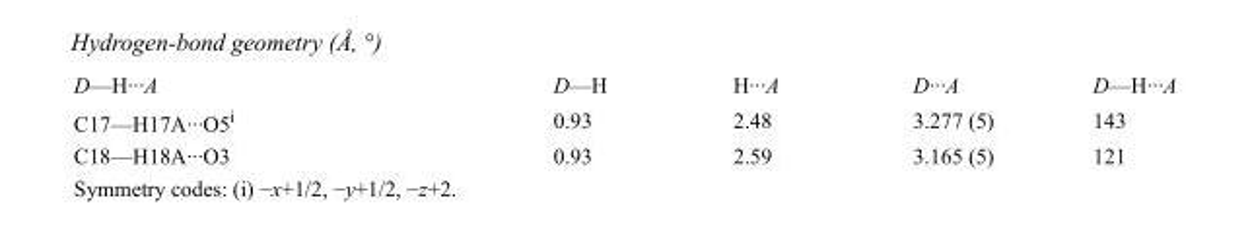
<table><tbody><tr><td>D—H···A</td><td>D—H</td><td>H···A</td><td>D···A</td><td>D—H···A</td></tr><tr><td>C17—H17A···O5<sup>i</sup></td><td>0.93</td><td>2.48</td><td>3.277 (5)</td><td>143</td></tr><tr><td>C18—H18A···O3</td><td>0.93</td><td>2.59</td><td>3.165 (5)</td><td>121</td></tr></tbody></table>